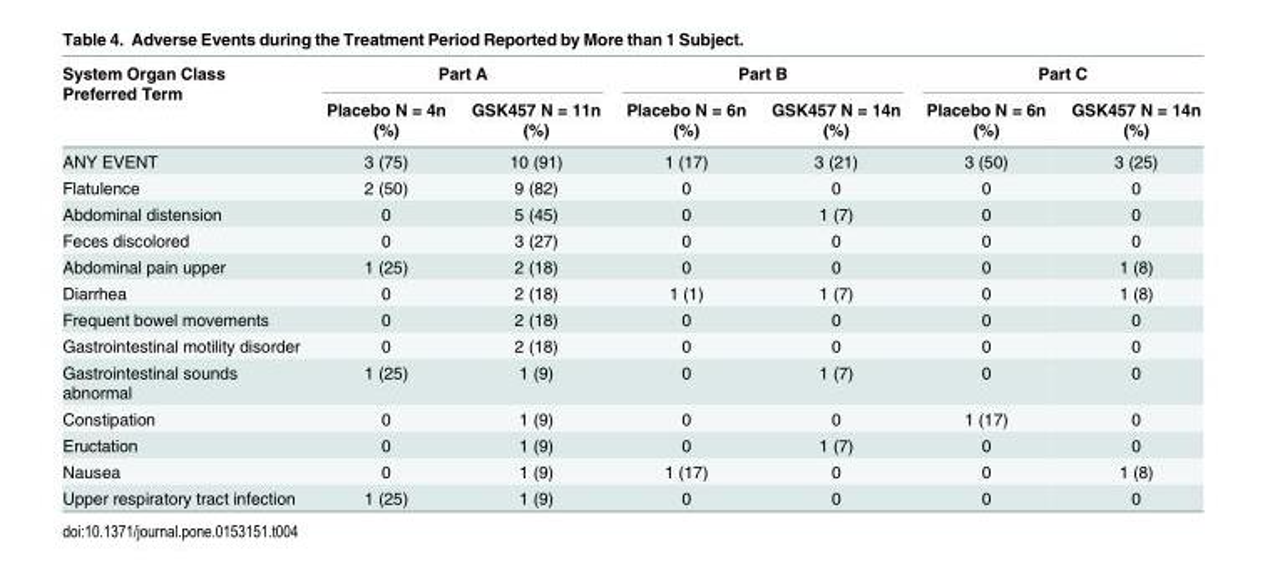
<table><thead><tr><td rowspan="2">System Organ Class Preferred Term</td><td colspan="2">Part A</td><td colspan="2">Part B</td><td colspan="2">Part C</td></tr><tr><td>Placebo N = 4n (%)</td><td>GSK457 N = 11n (%)</td><td>Placebo N = 6n (%)</td><td>GSK457 N = 14n (%)</td><td>Placebo N = 6n (%)</td><td>GSK457 N = 14n (%)</td></tr></thead><tbody><tr><td>ANY EVENT</td><td>3 (75)</td><td>10 (91)</td><td>1 (17)</td><td>3 (21)</td><td>3 (50)</td><td>3 (25)</td></tr><tr><td>Flatulence</td><td>2 (50)</td><td>9 (82)</td><td>0</td><td>0</td><td>0</td><td>0</td></tr><tr><td>Abdominal distension</td><td>0</td><td>5 (45)</td><td>0</td><td>1 (7)</td><td>0</td><td>0</td></tr><tr><td>Feces discolored</td><td>0</td><td>3 (27)</td><td>0</td><td>0</td><td>0</td><td>0</td></tr><tr><td>Abdominal pain upper</td><td>1 (25)</td><td>2 (18)</td><td>0</td><td>0</td><td>0</td><td>1 (8)</td></tr><tr><td>Diarrhea</td><td>0</td><td>2 (18)</td><td>1 (1)</td><td>1 (7)</td><td>0</td><td>1 (8)</td></tr><tr><td>Frequent bowel movements</td><td>0</td><td>2 (18)</td><td>0</td><td>0</td><td>0</td><td>0</td></tr><tr><td>Gastrointestinal motility disorder</td><td>0</td><td>2 (18)</td><td>0</td><td>0</td><td>0</td><td>0</td></tr><tr><td>Gastrointestinal sounds abnormal</td><td>1 (25)</td><td>1 (9)</td><td>0</td><td>1 (7)</td><td>0</td><td>0</td></tr><tr><td>Constipation</td><td>0</td><td>1 (9)</td><td>0</td><td>0</td><td>1 (17)</td><td>0</td></tr><tr><td>Eructation</td><td>0</td><td>1 (9)</td><td>0</td><td>1 (7)</td><td>0</td><td>0</td></tr><tr><td>Nausea</td><td>0</td><td>1 (9)</td><td>1 (17)</td><td>0</td><td>0</td><td>1 (8)</td></tr><tr><td>Upper respiratory tract infection</td><td>1 (25)</td><td>1 (9)</td><td>0</td><td>0</td><td>0</td><td>0</td></tr></tbody></table>